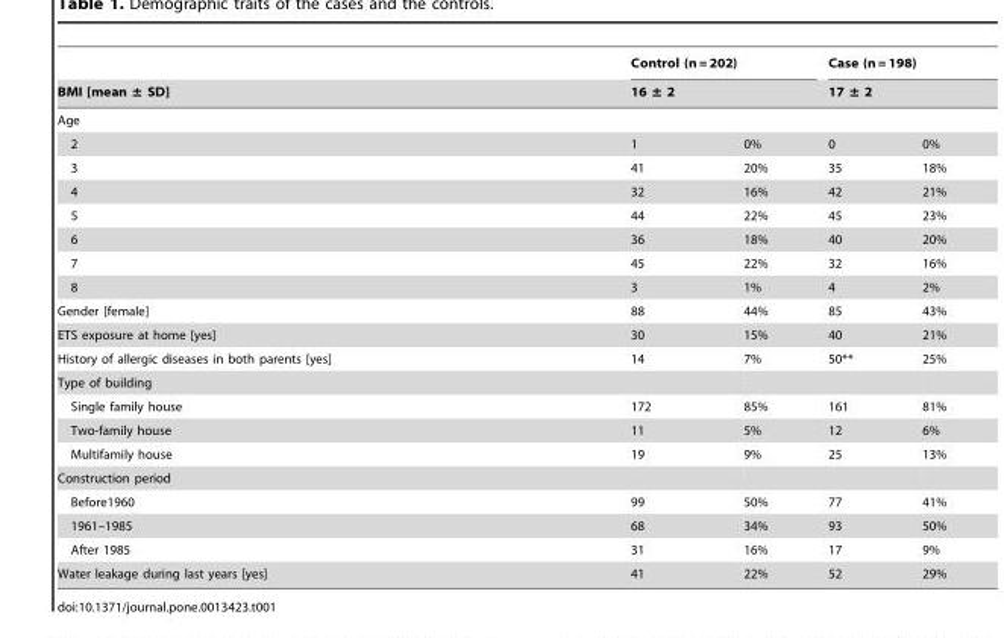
<table><thead><tr><td rowspan="3">BMI [mean ± SD] Age</td><td rowspan="2" colspan="2">Control (n = 202) 16 ± 2</td><td rowspan="2" colspan="2">Case (n = 198) 17 ± 2</td></tr><tr></tr><tr><td></td><td></td><td></td><td></td></tr></thead><tbody><tr><td>2</td><td>1</td><td>0%</td><td>0</td><td>0%</td></tr><tr><td>3</td><td>41</td><td>20%</td><td>35</td><td>18%</td></tr><tr><td>4</td><td>32</td><td>16%</td><td>42</td><td>21%</td></tr><tr><td>5</td><td>44</td><td>22%</td><td>45</td><td>23%</td></tr><tr><td>6</td><td>36</td><td>18%</td><td>40</td><td>20%</td></tr><tr><td>7</td><td>45</td><td>22%</td><td>32</td><td>16%</td></tr><tr><td>8</td><td>3</td><td>1%</td><td>4</td><td>2%</td></tr><tr><td>Gender [female]</td><td>88</td><td>44%</td><td>85</td><td>43%</td></tr><tr><td>ETS exposure at home [yes]</td><td>30</td><td>15%</td><td>40</td><td>21%</td></tr><tr><td>History of allergic diseases in both parents [yes]</td><td>14</td><td>7%</td><td>50**</td><td>25%</td></tr><tr><td colspan="5">Type of building</td></tr><tr><td>Single family house</td><td>172</td><td>85%</td><td>161</td><td>81%</td></tr><tr><td>Two-family house</td><td>11</td><td>5%</td><td>12</td><td>6%</td></tr><tr><td>Multifamily house</td><td>19</td><td>9%</td><td>25</td><td>13%</td></tr><tr><td colspan="5">Construction period</td></tr><tr><td>Before1960</td><td>99</td><td>50%</td><td>77</td><td>41%</td></tr><tr><td>1961–1985</td><td>68</td><td>34%</td><td>93</td><td>50%</td></tr><tr><td>After 1985</td><td>31</td><td>16%</td><td>17</td><td>9%</td></tr><tr><td>Water leakage during last years [yes]</td><td>41</td><td>22%</td><td>52</td><td>29%</td></tr></tbody></table>